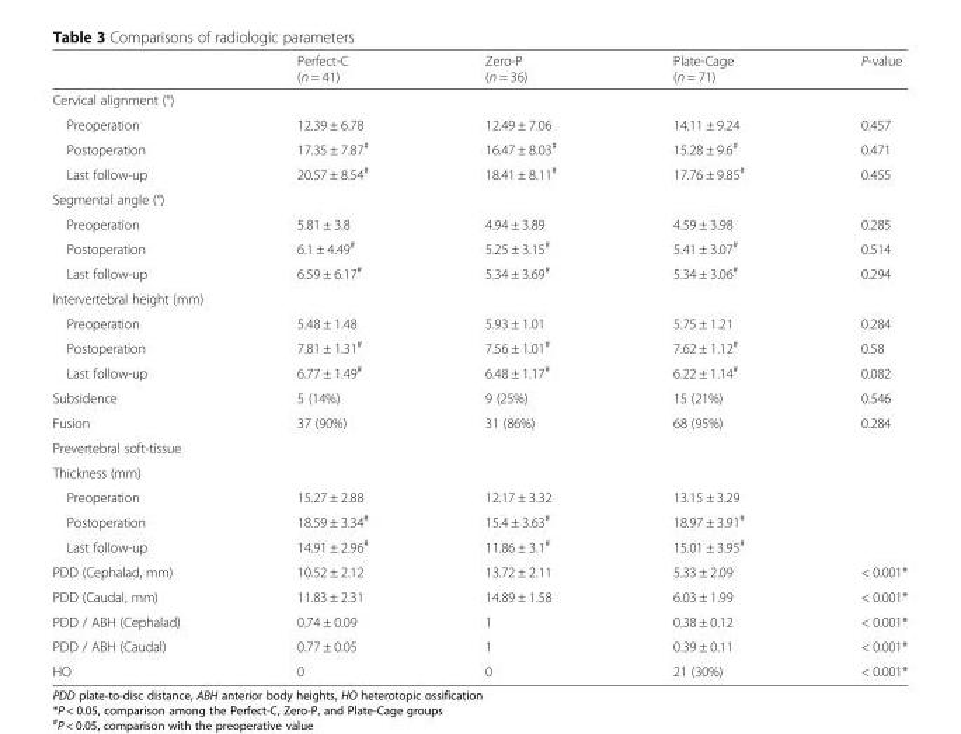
<table><thead><tr><td></td><td>Perfect-C (n = 41)</td><td>Zero-P (n = 36)</td><td>Plate-Cage (n = 71)</td><td>P-value</td></tr></thead><tbody><tr><td colspan="5">Cervical alignment (°)</td></tr><tr><td>Preoperation</td><td>12.39 ± 6.78</td><td>12.49 ± 7.06</td><td>14.11 ± 9.24</td><td>0.457</td></tr><tr><td>Postoperation</td><td>17.35 ± 7.87<sup>#</sup></td><td>16.47 ± 8.03<sup>#</sup></td><td>15.28 ± 9.6<sup>#</sup></td><td>0.471</td></tr><tr><td>Last follow-up</td><td>20.57 ± 8.54<sup>#</sup></td><td>18.41 ± 8.11<sup>#</sup></td><td>17.76 ± 9.85<sup>#</sup></td><td>0.455</td></tr><tr><td colspan="5">Segmental angle (°)</td></tr><tr><td>Preoperation</td><td>5.81 ± 3.8</td><td>4.94 ± 3.89</td><td>4.59 ± 3.98</td><td>0.285</td></tr><tr><td>Postoperation</td><td>6.1 ± 4.49<sup>#</sup></td><td>5.25 ± 3.15<sup>#</sup></td><td>5.41 ± 3.07<sup>#</sup></td><td>0.514</td></tr><tr><td>Last follow-up</td><td>6.59 ± 6.17<sup>#</sup></td><td>5.34 ± 3.69<sup>#</sup></td><td>5.34 ± 3.06<sup>#</sup></td><td>0.294</td></tr><tr><td colspan="5">Intervertebral height (mm)</td></tr><tr><td>Preoperation</td><td>5.48 ± 1.48</td><td>5.93 ± 1.01</td><td>5.75 ± 1.21</td><td>0.284</td></tr><tr><td>Postoperation</td><td>7.81 ± 1.31<sup>#</sup></td><td>7.56 ± 1.01<sup>#</sup></td><td>7.62 ± 1.12<sup>#</sup></td><td>0.58</td></tr><tr><td>Last follow-up</td><td>6.77 ± 1.49<sup>#</sup></td><td>6.48 ± 1.17<sup>#</sup></td><td>6.22 ± 1.14<sup>#</sup></td><td>0.082</td></tr><tr><td>Subsidence</td><td>5 (14%)</td><td>9 (25%)</td><td>15 (21%)</td><td>0.546</td></tr><tr><td>Fusion</td><td>37 (90%)</td><td>31 (86%)</td><td>68 (95%)</td><td>0.284</td></tr><tr><td colspan="5">Prevertebral soft-tissue</td></tr><tr><td colspan="5">Thickness (mm)</td></tr><tr><td>Preoperation</td><td>15.27 ± 2.88</td><td>12.17 ± 3.32</td><td>13.15 ± 3.29</td><td></td></tr><tr><td>Postoperation</td><td>18.59 ± 3.34<sup>#</sup></td><td>15.4 ± 3.63<sup>#</sup></td><td>18.97 ± 3.91<sup>#</sup></td><td></td></tr><tr><td>Last follow-up</td><td>14.91 ± 2.96<sup>#</sup></td><td>11.86 ± 3.1<sup>#</sup></td><td>15.01 ± 3.95<sup>#</sup></td><td></td></tr><tr><td>PDD (Cephalad, mm)</td><td>10.52 ± 2.12</td><td>13.72 ± 2.11</td><td>5.33 ± 2.09</td><td>&lt; 0.001*</td></tr><tr><td>PDD (Caudal, mm)</td><td>11.83 ± 2.31</td><td>14.89 ± 1.58</td><td>6.03 ± 1.99</td><td>&lt; 0.001*</td></tr><tr><td>PDD / ABH (Cephalad)</td><td>0.74 ± 0.09</td><td>1</td><td>0.38 ± 0.12</td><td>&lt; 0.001*</td></tr><tr><td>PDD / ABH (Caudal)</td><td>0.77 ± 0.05</td><td>1</td><td>0.39 ± 0.11</td><td>&lt; 0.001*</td></tr><tr><td>HO</td><td>0</td><td>0</td><td>21 (30%)</td><td>&lt; 0.001*</td></tr></tbody></table>